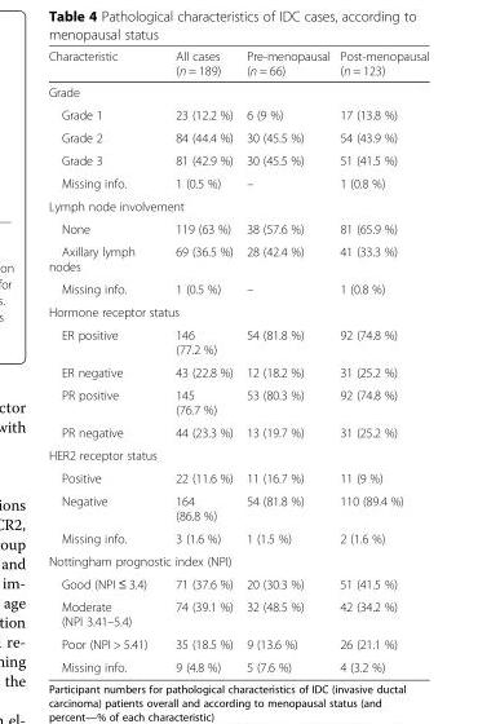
<table><thead><tr><td>Characteristic</td><td>All cases (n = 189)</td><td>Pre-menopausal (n = 66)</td><td>Post-menopausal (n = 123)</td></tr></thead><tbody><tr><td colspan="4">Grade</td></tr><tr><td>Grade 1</td><td>23 (12.2 %)</td><td>6 (9 %)</td><td>17 (13.8 %)</td></tr><tr><td>Grade 2</td><td>84 (44.4 %)</td><td>30 (45.5 %)</td><td>54 (43.9 %)</td></tr><tr><td>Grade 3</td><td>81 (42.9 %)</td><td>30 (45.5 %)</td><td>51 (41.5 %)</td></tr><tr><td>Missing info.</td><td>1 (0.5 %)</td><td>–</td><td>1 (0.8 %)</td></tr><tr><td colspan="4">Lymph node involvement</td></tr><tr><td>None</td><td>119 (63 %)</td><td>38 (57.6 %)</td><td>81 (65.9 %)</td></tr><tr><td>Axillary lymph nodes</td><td>69 (36.5 %)</td><td>28 (42.4 %)</td><td>41 (33.3 %)</td></tr><tr><td>Missing info.</td><td>1 (0.5 %)</td><td>–</td><td>1 (0.8 %)</td></tr><tr><td colspan="4">Hormone receptor status</td></tr><tr><td>ER positive</td><td>146 (77.2 %)</td><td>54 (81.8 %)</td><td>92 (74.8 %)</td></tr><tr><td>ER negative</td><td>43 (22.8 %)</td><td>12 (18.2 %)</td><td>31 (25.2 %)</td></tr><tr><td>PR positive</td><td>145 (76.7 %)</td><td>53 (80.3 %)</td><td>92 (74.8 %)</td></tr><tr><td>PR negative</td><td>44 (23.3 %)</td><td>13 (19.7 %)</td><td>31 (25.2 %)</td></tr><tr><td colspan="4">HER2 receptor status</td></tr><tr><td>Positive</td><td>22 (11.6 %)</td><td>11 (16.7 %)</td><td>11 (9 %)</td></tr><tr><td>Negative</td><td>164 (86.8 %)</td><td>54 (81.8 %)</td><td>110 (89.4 %)</td></tr><tr><td>Missing info.</td><td>3 (1.6 %)</td><td>1 (1.5 %)</td><td>2 (1.6 %)</td></tr><tr><td colspan="4">Nottingham prognostic index (NPI)</td></tr><tr><td>Good (NPI ≤ 3.4)</td><td>71 (37.6 %)</td><td>20 (30.3 %)</td><td>51 (41.5 %)</td></tr><tr><td>Moderate (NPI 3.41–5.4)</td><td>74 (39.1 %)</td><td>32 (48.5 %)</td><td>42 (34.2 %)</td></tr><tr><td>Poor (NPI &gt; 5.41)</td><td>35 (18.5 %)</td><td>9 (13.6 %)</td><td>26 (21.1 %)</td></tr><tr><td>Missing info.</td><td>9 (4.8 %)</td><td>5 (7.6 %)</td><td>4 (3.2 %)</td></tr></tbody></table>